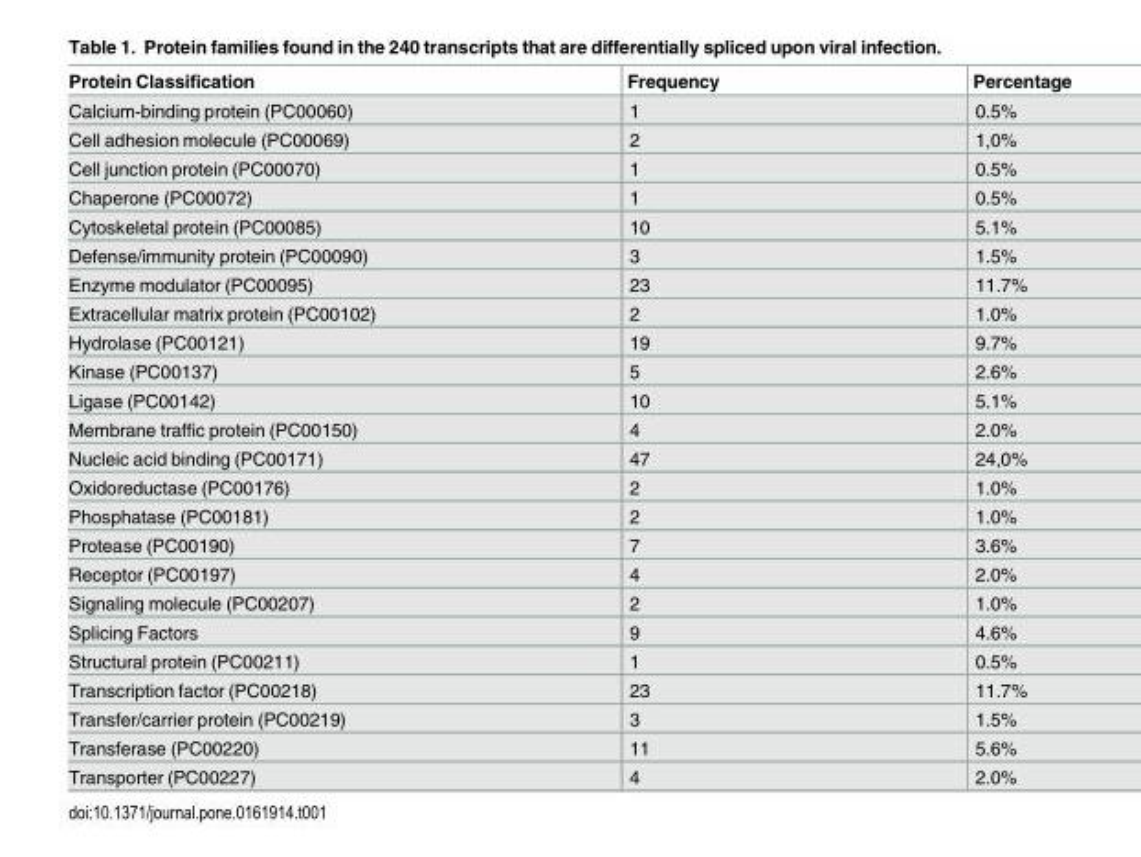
<table><thead><tr><td>Protein Classification</td><td>Frequency</td><td>Percentage</td></tr></thead><tbody><tr><td>Calcium-binding protein (PC00060)</td><td>1</td><td>0.5%</td></tr><tr><td>Cell adhesion molecule (PC00069)</td><td>2</td><td>1,0%</td></tr><tr><td>Cell junction protein (PC00070)</td><td>1</td><td>0.5%</td></tr><tr><td>Chaperone (PC00072)</td><td>1</td><td>0.5%</td></tr><tr><td>Cytoskeletal protein (PC00085)</td><td>10</td><td>5.1%</td></tr><tr><td>Defense/immunity protein (PC00090)</td><td>3</td><td>1.5%</td></tr><tr><td>Enzyme modulator (PC00095)</td><td>23</td><td>11.7%</td></tr><tr><td>Extracellular matrix protein (PC00102)</td><td>2</td><td>1.0%</td></tr><tr><td>Hydrolase (PC00121)</td><td>19</td><td>9.7%</td></tr><tr><td>Kinase (PC00137)</td><td>5</td><td>2.6%</td></tr><tr><td>Ligase (PC00142)</td><td>10</td><td>5.1%</td></tr><tr><td>Membrane traffic protein (PC00150)</td><td>4</td><td>2.0%</td></tr><tr><td>Nucleic acid binding (PC00171)</td><td>47</td><td>24,0%</td></tr><tr><td>Oxidoreductase (PC00176)</td><td>2</td><td>1.0%</td></tr><tr><td>Phosphatase (PC00181)</td><td>2</td><td>1.0%</td></tr><tr><td>Protease (PC00190)</td><td>7</td><td>3.6%</td></tr><tr><td>Receptor (PC00197)</td><td>4</td><td>2.0%</td></tr><tr><td>Signaling molecule (PC00207)</td><td>2</td><td>1.0%</td></tr><tr><td>Splicing Factors</td><td>9</td><td>4.6%</td></tr><tr><td>Structural protein (PC00211)</td><td>1</td><td>0.5%</td></tr><tr><td>Transcription factor (PC00218)</td><td>23</td><td>11.7%</td></tr><tr><td>Transfer/carrier protein (PC00219)</td><td>3</td><td>1.5%</td></tr><tr><td>Transferase (PC00220)</td><td>11</td><td>5.6%</td></tr><tr><td>Transporter (PC00227)</td><td>4</td><td>2.0%</td></tr></tbody></table>